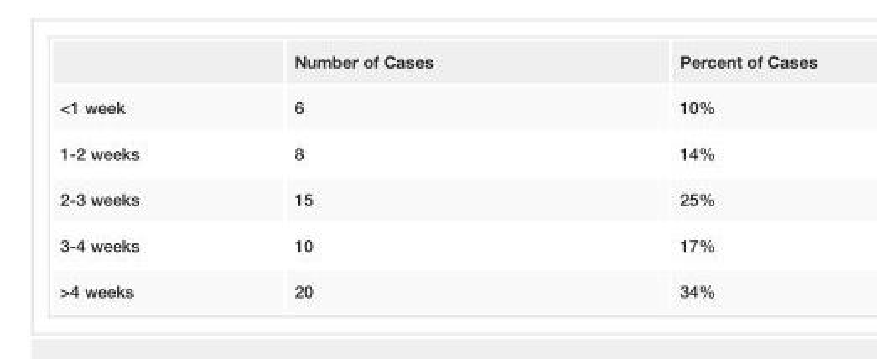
<table><thead><tr><td></td><td>Number of Cases</td><td>Percent of Cases</td></tr></thead><tbody><tr><td>&lt;1 week</td><td>6</td><td>10%</td></tr><tr><td>1-2 weeks</td><td>8</td><td>14%</td></tr><tr><td>2-3 weeks</td><td>15</td><td>25%</td></tr><tr><td>3-4 weeks</td><td>10</td><td>17%</td></tr><tr><td>&gt;4 weeks</td><td>20</td><td>34%</td></tr></tbody></table>